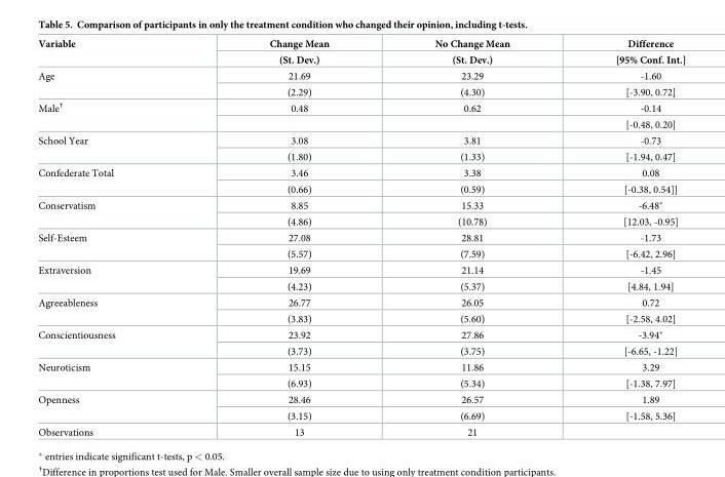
<table><thead><tr><td rowspan="2">Variable</td><td rowspan="2">Change Mean (St. Dev.)</td><td rowspan="2">No Change Mean (St. Dev.)</td><td rowspan="2">Difference [95% Conf. Int.]</td></tr><tr></tr></thead><tbody><tr><td rowspan="2">Age</td><td>21.69</td><td>23.29</td><td>-1.60</td></tr><tr><td>(2.29)</td><td>(4.30)</td><td>[-3.90, 0.72]</td></tr><tr><td rowspan="2">Male<sup>†</sup></td><td>0.48</td><td>0.62</td><td>-0.14</td></tr><tr><td></td><td></td><td>[-0.48, 0.20]</td></tr><tr><td rowspan="2">School Year</td><td>3.08</td><td>3.81</td><td>-0.73</td></tr><tr><td>(1.80)</td><td>(1.33)</td><td>[-1.94, 0.47]</td></tr><tr><td rowspan="2">Confederate Total</td><td>3.46</td><td>3.38</td><td>0.08</td></tr><tr><td>(0.66)</td><td>(0.59)</td><td>[-0.38, 0.54]]</td></tr><tr><td rowspan="2">Conservatism</td><td>8.85</td><td>15.33</td><td>-6.48*</td></tr><tr><td>(4.86)</td><td>(10.78)</td><td>[12.03, -0.95]</td></tr><tr><td rowspan="2">Self-Esteem</td><td>27.08</td><td>28.81</td><td>-1.73</td></tr><tr><td>(5.57)</td><td>(7.59)</td><td>[-6.42, 2.96]</td></tr><tr><td rowspan="2">Extraversion</td><td>19.69</td><td>21.14</td><td>-1.45</td></tr><tr><td>(4.23)</td><td>(5.37)</td><td>[4.84, 1.94]</td></tr><tr><td rowspan="2">Agreeableness</td><td>26.77</td><td>26.05</td><td>0.72</td></tr><tr><td>(3.83)</td><td>(5.60)</td><td>[-2.58, 4.02]</td></tr><tr><td rowspan="2">Conscientiousness</td><td>23.92</td><td>27.86</td><td>-3.94*</td></tr><tr><td>(3.73)</td><td>(3.75)</td><td>[-6.65, -1.22]</td></tr><tr><td rowspan="2">Neuroticism</td><td>15.15</td><td>11.86</td><td>3.29</td></tr><tr><td>(6.93)</td><td>(5.34)</td><td>[-1.38, 7.97]</td></tr><tr><td rowspan="2">Openness</td><td>28.46</td><td>26.57</td><td>1.89</td></tr><tr><td>(3.15)</td><td>(6.69)</td><td>[-1.58, 5.36]</td></tr><tr><td>Observations</td><td>13</td><td>21</td><td></td></tr></tbody></table>